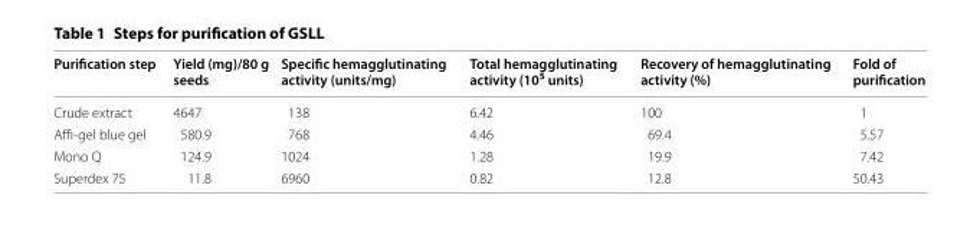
<table><thead><tr><td>Purification step</td><td>Yield (mg)/80 g seeds</td><td>Specific hemagglutinating activity (units/mg)</td><td>Total hemagglutinating activity (10<sup>5</sup> units)</td><td>Recovery of hemagglutinating activity (%)</td><td>Fold of purification</td></tr></thead><tbody><tr><td>Crude extract</td><td>4647</td><td>138</td><td>6.42</td><td>100</td><td>1</td></tr><tr><td>Affi-gel blue gel</td><td>580.9</td><td>768</td><td>4.46</td><td>69.4</td><td>5.57</td></tr><tr><td>Mono Q</td><td>124.9</td><td>1024</td><td>1.28</td><td>19.9</td><td>7.42</td></tr><tr><td>Superdex 75</td><td>11.8</td><td>6960</td><td>0.82</td><td>12.8</td><td>50.43</td></tr></tbody></table>